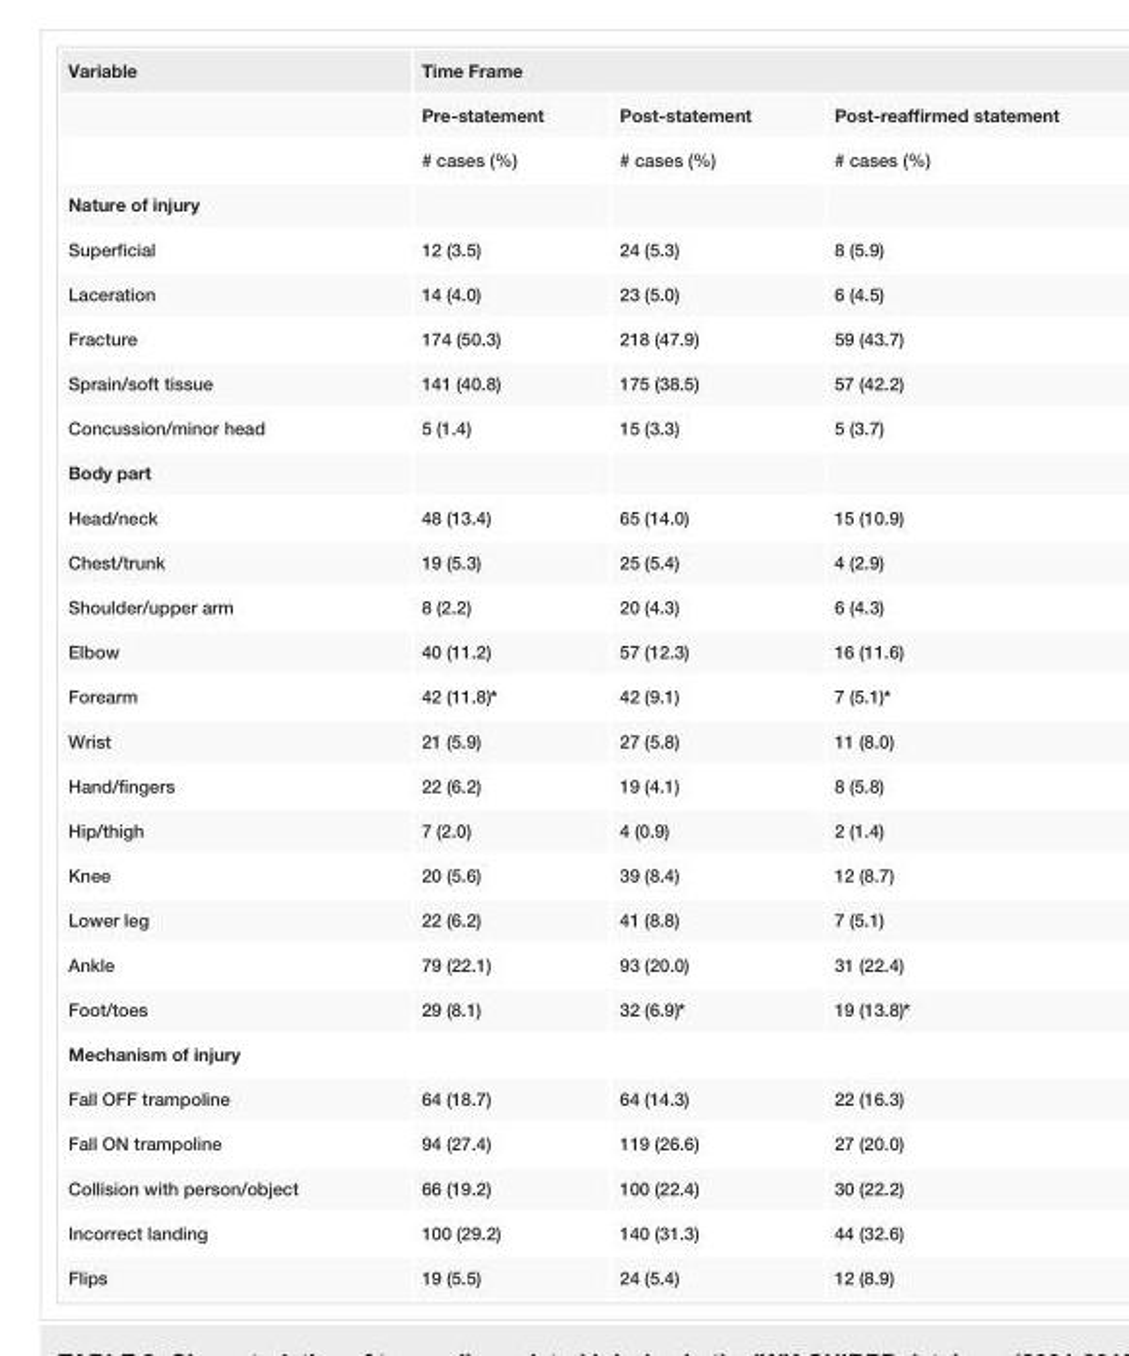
<table><tbody><tr><td rowspan="3">Variable</td><td colspan="3">Time Frame</td></tr><tr><td>Pre-statement</td><td>Post-statement</td><td>Post-reaffirmed statement</td></tr><tr><td># cases (%)</td><td># cases (%)</td><td># cases (%)</td></tr><tr><td colspan="4">Nature of injury</td></tr><tr><td>Superficial</td><td>12 (3.5)</td><td>24 (5.3)</td><td>8 (5.9)</td></tr><tr><td>Laceration</td><td>14 (4.0)</td><td>23 (5.0)</td><td>6 (4.5)</td></tr><tr><td>Fracture</td><td>174 (50.3)</td><td>218 (47.9)</td><td>59 (43.7)</td></tr><tr><td>Sprain/soft tissue</td><td>141 (40.8)</td><td>175 (38.5)</td><td>57 (42.2)</td></tr><tr><td>Concussion/minor head</td><td>5 (1.4)</td><td>15 (3.3)</td><td>5 (3.7)</td></tr><tr><td colspan="4">Body part</td></tr><tr><td>Head/neck</td><td>48 (13.4)</td><td>65 (14.0)</td><td>15 (10.9)</td></tr><tr><td>Chest/trunk</td><td>19 (5.3)</td><td>25 (5.4)</td><td>4 (2.9)</td></tr><tr><td>Shoulder/upper arm</td><td>8 (2.2)</td><td>20 (4.3)</td><td>6 (4.3)</td></tr><tr><td>Elbow</td><td>40 (11.2)</td><td>57 (12.3)</td><td>16 (11.6)</td></tr><tr><td>Forearm</td><td>42 (11.8)*</td><td>42 (9.1)</td><td>7 (5.1)*</td></tr><tr><td>Wrist</td><td>21 (5.9)</td><td>27 (5.8)</td><td>11 (8.0)</td></tr><tr><td>Hand/fingers</td><td>22 (6.2)</td><td>19 (4.1)</td><td>8 (5.8)</td></tr><tr><td>Hip/thigh</td><td>7 (2.0)</td><td>4 (0.9)</td><td>2 (1.4)</td></tr><tr><td>Knee</td><td>20 (5.6)</td><td>39 (8.4)</td><td>12 (8.7)</td></tr><tr><td>Lower leg</td><td>22 (6.2)</td><td>41 (8.8)</td><td>7 (5.1)</td></tr><tr><td>Ankle</td><td>79 (22.1)</td><td>93 (20.0)</td><td>31 (22.4)</td></tr><tr><td>Foot/toes</td><td>29 (8.1)</td><td>32 (6.9)*</td><td>19 (13.8)*</td></tr><tr><td colspan="4">Mechanism of injury</td></tr><tr><td>Fall OFF trampoline</td><td>64 (18.7)</td><td>64 (14.3)</td><td>22 (16.3)</td></tr><tr><td>Fall ON trampoline</td><td>94 (27.4)</td><td>119 (26.6)</td><td>27 (20.0)</td></tr><tr><td>Collision with person/object</td><td>66 (19.2)</td><td>100 (22.4)</td><td>30 (22.2)</td></tr><tr><td>Incorrect landing</td><td>100 (29.2)</td><td>140 (31.3)</td><td>44 (32.6)</td></tr><tr><td>Flips</td><td>19 (5.5)</td><td>24 (5.4)</td><td>12 (8.9)</td></tr></tbody></table>